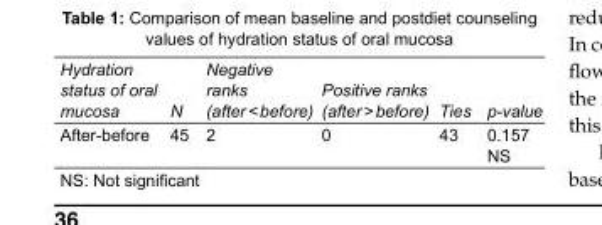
<table><tbody><tr><td>Hydration status of oral mucosa</td><td>N</td><td>Negative ranks (after &lt; before)</td><td>Positive ranks (after &gt; before)</td><td>Ties</td><td>p-value</td></tr><tr><td rowspan="2">After-before</td><td>45</td><td>2</td><td>0</td><td>43</td><td>0.157</td></tr><tr><td></td><td></td><td></td><td></td><td>NS</td></tr></tbody></table>